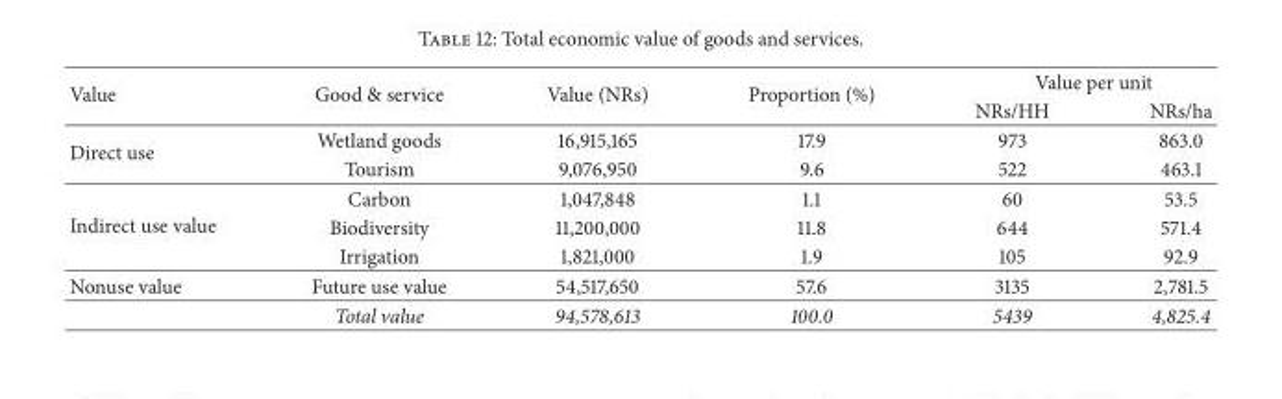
<table><thead><tr><td rowspan="2">Value</td><td rowspan="2">Good &amp; service</td><td rowspan="2">Value (NRs)</td><td rowspan="2">Proportion (%)</td><td colspan="2">Value per unit</td></tr><tr><td>NRs/HH</td><td>NRs/ha</td></tr></thead><tbody><tr><td rowspan="2">Direct use</td><td>Wetland goods</td><td>16,915,165</td><td>17.9</td><td>973</td><td>863.0</td></tr><tr><td>Tourism</td><td>9,076,950</td><td>9.6</td><td>522</td><td>463.1</td></tr><tr><td rowspan="3">Indirect use value</td><td>Carbon</td><td>1,047,848</td><td>1.1</td><td>60</td><td>53.5</td></tr><tr><td>Biodiversity</td><td>11,200,000</td><td>11.8</td><td>644</td><td>571.4</td></tr><tr><td>Irrigation</td><td>1,821,000</td><td>1.9</td><td>105</td><td>92.9</td></tr><tr><td rowspan="2">Nonuse value</td><td>Future use value</td><td>54,517,650</td><td>57.6</td><td>3135</td><td>2,781.5</td></tr><tr><td>Total value</td><td>94,578,613</td><td>100.0</td><td>5439</td><td>4,825.4</td></tr></tbody></table>